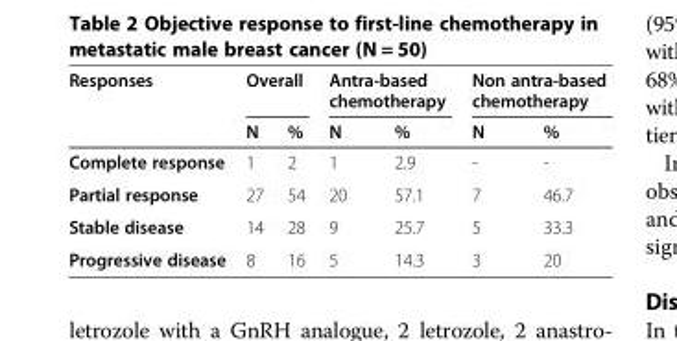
<table><thead><tr><td rowspan="2">Responses</td><td colspan="2">Overall</td><td colspan="2">Antra-based chemotherapy</td><td colspan="2">Non antra-based chemotherapy</td></tr><tr><td>N</td><td>%</td><td>N</td><td>%</td><td>N</td><td>%</td></tr></thead><tbody><tr><td>Complete response</td><td>1</td><td>2</td><td>1</td><td>2.9</td><td>-</td><td>-</td></tr><tr><td>Partial response</td><td>27</td><td>54</td><td>20</td><td>57.1</td><td>7</td><td>46.7</td></tr><tr><td>Stable disease</td><td>14</td><td>28</td><td>9</td><td>25.7</td><td>5</td><td>33.3</td></tr><tr><td>Progressive disease</td><td>8</td><td>16</td><td>5</td><td>14.3</td><td>3</td><td>20</td></tr></tbody></table>